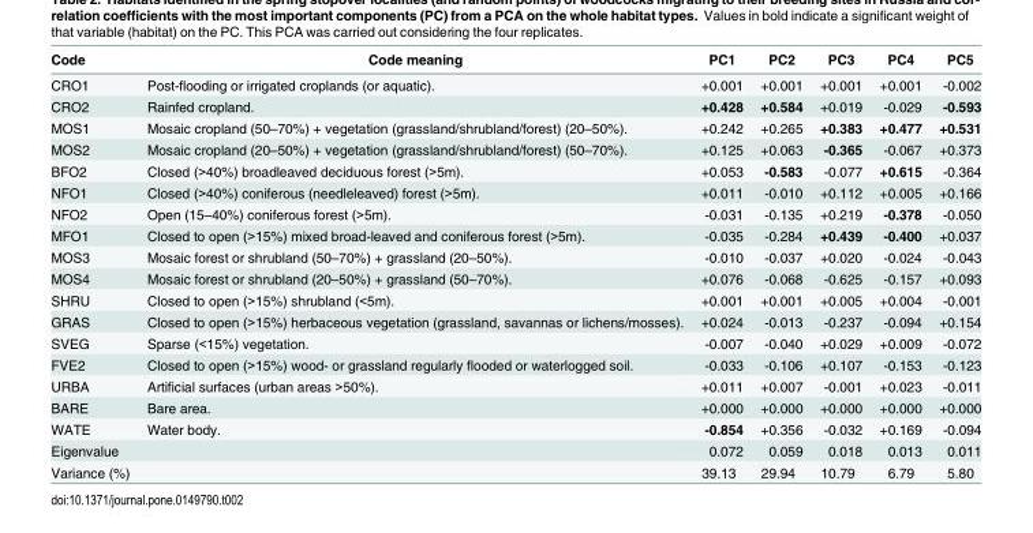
<table><thead><tr><td>Code</td><td>Code meaning</td><td>PC1</td><td>PC2</td><td>PC3</td><td>PC4</td><td>PC5</td></tr></thead><tbody><tr><td>CRO1</td><td>Post-flooding or irrigated croplands (or aquatic).</td><td>+0.001</td><td>+0.001</td><td>+0.001</td><td>+0.001</td><td>-0.002</td></tr><tr><td>CRO2</td><td>Rainfed cropland.</td><td>+0.428</td><td>+0.584</td><td>+0.019</td><td>-0.029</td><td>-0.593</td></tr><tr><td>MOS1</td><td>Mosaic cropland (50–70%) + vegetation (grassland/shrubland/forest) (20–50%).</td><td>+0.242</td><td>+0.265</td><td>+0.383</td><td>+0.477</td><td>+0.531</td></tr><tr><td>MOS2</td><td>Mosaic cropland (20–50%) + vegetation (grassland/shrubland/forest) (50–70%).</td><td>+0.125</td><td>+0.063</td><td>-0.365</td><td>-0.067</td><td>+0.373</td></tr><tr><td>BFO2</td><td>Closed (&gt;40%) broadleaved deciduous forest (&gt;5m).</td><td>+0.053</td><td>-0.583</td><td>-0.077</td><td>+0.615</td><td>-0.364</td></tr><tr><td>NFO1</td><td>Closed (&gt;40%) coniferous (needleleaved) forest (&gt;5m).</td><td>+0.011</td><td>-0.010</td><td>+0.112</td><td>+0.005</td><td>+0.166</td></tr><tr><td>NFO2</td><td>Open (15–40%) coniferous forest (&gt;5m).</td><td>-0.031</td><td>-0.135</td><td>+0.219</td><td>-0.378</td><td>-0.050</td></tr><tr><td>MFO1</td><td>Closed to open (&gt;15%) mixed broad-leaved and coniferous forest (&gt;5m).</td><td>-0.035</td><td>-0.284</td><td>+0.439</td><td>-0.400</td><td>+0.037</td></tr><tr><td>MOS3</td><td>Mosaic forest or shrubland (50–70%) + grassland (20–50%).</td><td>-0.010</td><td>-0.037</td><td>+0.020</td><td>-0.024</td><td>-0.043</td></tr><tr><td>MOS4</td><td>Mosaic forest or shrubland (20–50%) + grassland (50–70%).</td><td>+0.076</td><td>-0.068</td><td>-0.625</td><td>-0.157</td><td>+0.093</td></tr><tr><td>SHRU</td><td>Closed to open (&gt;15%) shrubland (&lt;5m).</td><td>+0.001</td><td>+0.001</td><td>+0.005</td><td>+0.004</td><td>-0.001</td></tr><tr><td>GRAS</td><td>Closed to open (&gt;15%) herbaceous vegetation (grassland, savannas or lichens/mosses).</td><td>+0.024</td><td>-0.013</td><td>-0.237</td><td>-0.094</td><td>+0.154</td></tr><tr><td>SVEG</td><td>Sparse (&lt;15%) vegetation.</td><td>-0.007</td><td>-0.040</td><td>+0.029</td><td>+0.009</td><td>-0.072</td></tr><tr><td>FVE2</td><td>Closed to open (&gt;15%) wood- or grassland regularly flooded or waterlogged soil.</td><td>-0.033</td><td>-0.106</td><td>+0.107</td><td>-0.153</td><td>-0.123</td></tr><tr><td>URBA</td><td>Artificial surfaces (urban areas &gt;50%).</td><td>+0.011</td><td>+0.007</td><td>-0.001</td><td>+0.023</td><td>-0.011</td></tr><tr><td>BARE</td><td>Bare area.</td><td>+0.000</td><td>+0.000</td><td>+0.000</td><td>+0.000</td><td>+0.000</td></tr><tr><td>WATE</td><td>Water body.</td><td>-0.854</td><td>+0.356</td><td>-0.032</td><td>+0.169</td><td>-0.094</td></tr><tr><td>Eigenvalue</td><td></td><td>0.072</td><td>0.059</td><td>0.018</td><td>0.013</td><td>0.011</td></tr><tr><td>Variance (%)</td><td></td><td>39.13</td><td>29.94</td><td>10.79</td><td>6.79</td><td>5.80</td></tr></tbody></table>